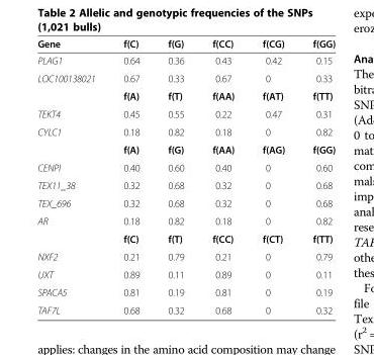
<table><thead><tr><td>Gene</td><td>f(C)</td><td>f(G)</td><td>f(CC)</td><td>f(CG)</td><td>f(GG)</td></tr></thead><tbody><tr><td>PLAG1</td><td>0.64</td><td>0.36</td><td>0.43</td><td>0.42</td><td>0.15</td></tr><tr><td rowspan="2">LOC100138021</td><td>0.67</td><td>0.33</td><td>0.67</td><td>0</td><td>0.33</td></tr><tr><td>f(A)</td><td>f(T)</td><td>f(AA)</td><td>f(AT)</td><td>f(TT)</td></tr><tr><td>TEKT4</td><td>0.45</td><td>0.55</td><td>0.22</td><td>0.47</td><td>0.31</td></tr><tr><td rowspan="2">CYLC1</td><td>0.18</td><td>0.82</td><td>0.18</td><td>0</td><td>0.82</td></tr><tr><td>f(A)</td><td>f(G)</td><td>f(AA)</td><td>f(AG)</td><td>f(GG)</td></tr><tr><td>CENPI</td><td>0.40</td><td>0.60</td><td>0.40</td><td>0</td><td>0.60</td></tr><tr><td>TEX11_38</td><td>0.32</td><td>0.68</td><td>0.32</td><td>0</td><td>0.68</td></tr><tr><td>TEX_696</td><td>0.32</td><td>0.68</td><td>0.32</td><td>0</td><td>0.68</td></tr><tr><td rowspan="2">AR</td><td>0.18</td><td>0.82</td><td>0.18</td><td>0</td><td>0.82</td></tr><tr><td>f(C)</td><td>f(T)</td><td>f(CC)</td><td>f(CT)</td><td>f(TT)</td></tr><tr><td>NXF2</td><td>0.21</td><td>0.79</td><td>0.21</td><td>0</td><td>0.79</td></tr><tr><td>UXT</td><td>0.89</td><td>0.11</td><td>0.89</td><td>0</td><td>0.11</td></tr><tr><td>SPACA5</td><td>0.81</td><td>0.19</td><td>0.81</td><td>0</td><td>0.19</td></tr><tr><td>TAF7L</td><td>0.68</td><td>0.32</td><td>0.68</td><td>0</td><td>0.32</td></tr></tbody></table>